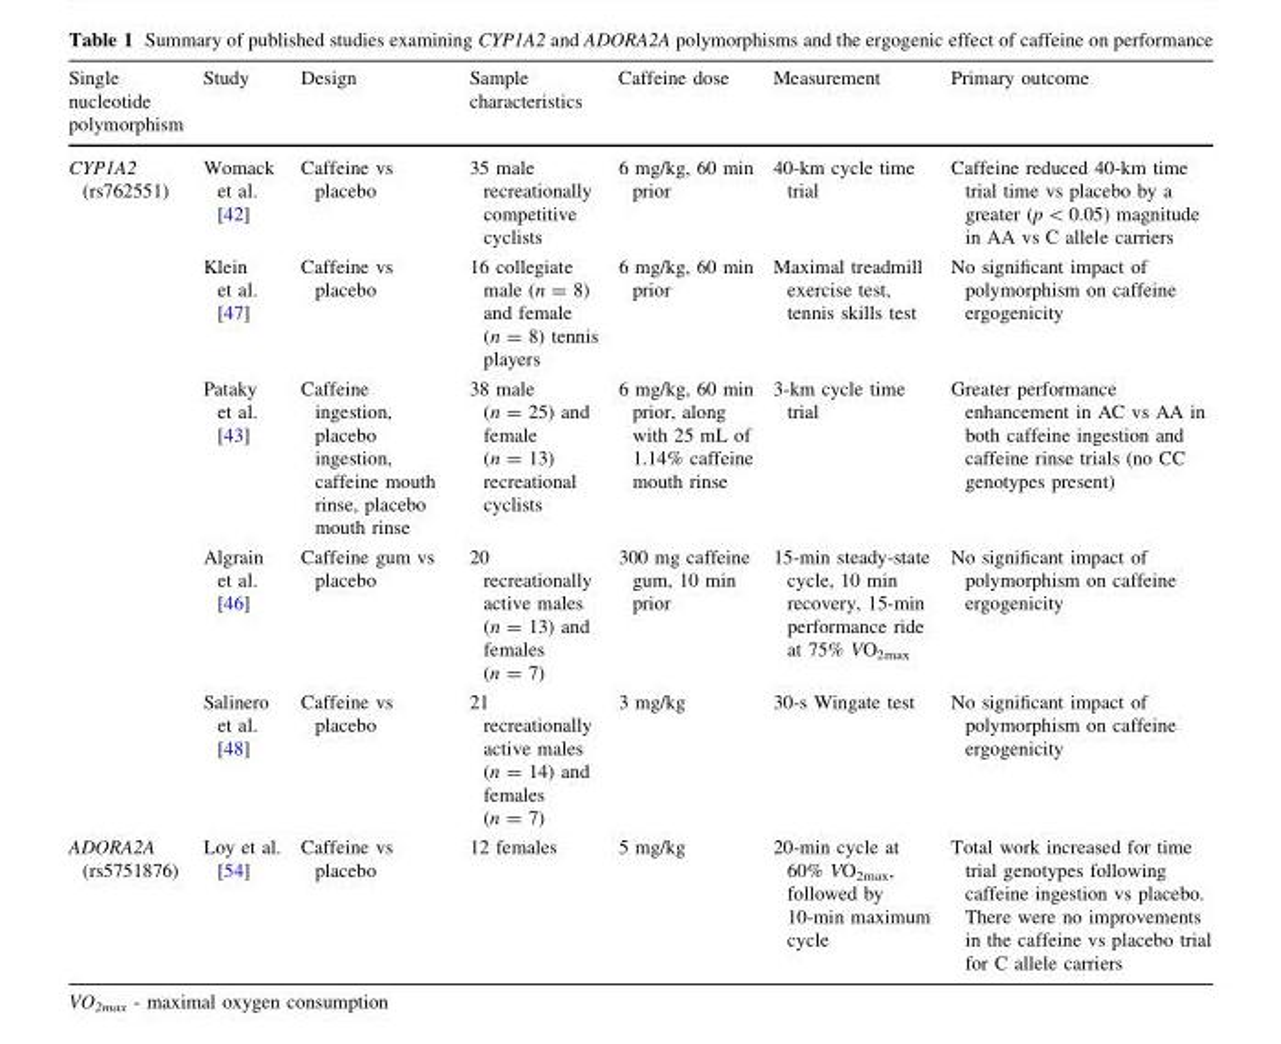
<table><thead><tr><td>Single nucleotide polymorphism</td><td>Study</td><td>Design</td><td>Sample characteristics</td><td>Caffeine dose</td><td>Measurement</td><td>Primary outcome</td></tr></thead><tbody><tr><td rowspan="5">CYP1A2 (rs762551)</td><td>Womack et al. [42]</td><td>Caffeine vs placebo</td><td>35 male recreationally competitive cyclists</td><td>6 mg/kg, 60 min prior</td><td>40-km cycle time trial</td><td>Caffeine reduced 40-km time trial time vs placebo by a greater (p &lt; 0.05) magnitude in AA vs C allele carriers</td></tr><tr><td>Klein et al. [47]</td><td>Caffeine vs placebo</td><td>16 collegiate male (n = 8) and female (n = 8) tennis players</td><td>6 mg/kg, 60 min prior</td><td>Maximal treadmill exercise test, tennis skills test</td><td>No significant impact of polymorphism on caffeine ergogenicity</td></tr><tr><td>Pataky et al. [43]</td><td>Caffeine ingestion, placebo ingestion, caffeine mouth rinse, placebo mouth rinse</td><td>38 male (n = 25) and female (n = 13) recreational cyclists</td><td>6 mg/kg, 60 min prior, along with 25 mL of 1.14% caffeine mouth rinse</td><td>3-km cycle time trial</td><td>Greater performance enhancement in AC vs AA in both caffeine ingestion and caffeine rinse trials (no CC genotypes present)</td></tr><tr><td>Algrain et al. [46]</td><td>Caffeine gum vs placebo</td><td>20 recreationally active males (n = 13) and females (n = 7)</td><td>300 mg caffeine gum, 10 min prior</td><td>15-min steady-state cycle, 10 min recovery, 15-min performance ride at 75% VO<sub>2max</sub></td><td>No significant impact of polymorphism on caffeine ergogenicity</td></tr><tr><td>Salinero et al. [48]</td><td>Caffeine vs placebo</td><td>21 recreationally active males (n = 14) and females (n = 7)</td><td>3 mg/kg</td><td>30-s Wingate test</td><td>No significant impact of polymorphism on caffeine ergogenicity</td></tr><tr><td>ADORA2A (rs5751876)</td><td>Loy et al. [54]</td><td>Caffeine vs placebo</td><td>12 females</td><td>5 mg/kg</td><td>20-min cycle at 60% VO<sub>2max</sub>, followed by 10-min maximum cycle</td><td>Total work increased for time trial genotypes following caffeine ingestion vs placebo. There were no improvements in the caffeine vs placebo trial for C allele carriers</td></tr></tbody></table>